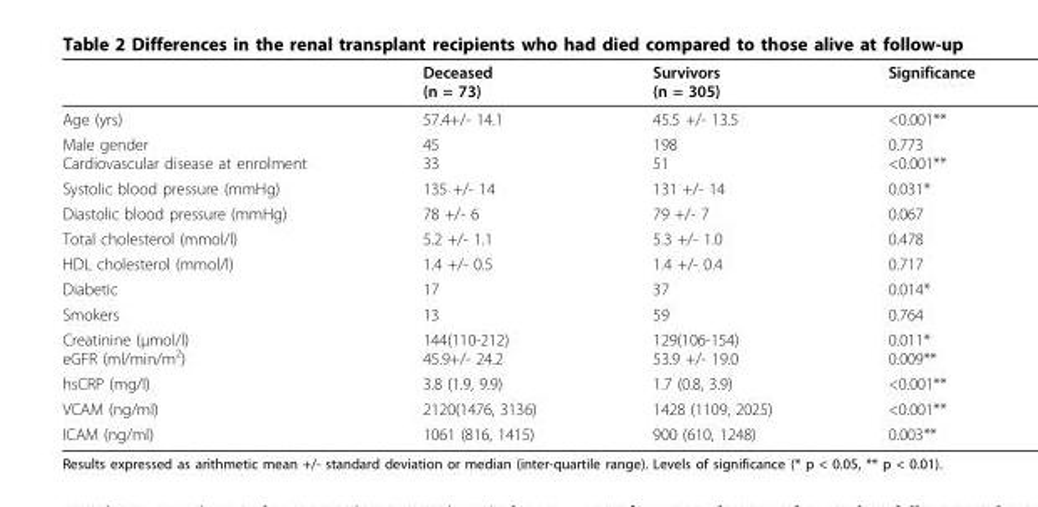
<table><thead><tr><td></td><td>Deceased (n = 73)</td><td>Survivors (n = 305)</td><td>Significance</td></tr></thead><tbody><tr><td>Age (yrs)</td><td>57.4+/- 14.1</td><td>45.5 +/- 13.5</td><td>&lt;0.001**</td></tr><tr><td>Male gender Cardiovascular disease at enrolment</td><td>45 33</td><td>198 51</td><td>0.773 &lt;0.001**</td></tr><tr><td>Systolic blood pressure (mmHg)</td><td>135 +/- 14</td><td>131 +/- 14</td><td>0.031*</td></tr><tr><td>Diastolic blood pressure (mmHg)</td><td>78 +/- 6</td><td>79 +/- 7</td><td>0.067</td></tr><tr><td>Total cholesterol (mmol/l)</td><td>5.2 +/- 1.1</td><td>5.3 +/- 1.0</td><td>0.478</td></tr><tr><td>HDL cholesterol (mmol/l)</td><td>1.4 +/- 0.5</td><td>1.4 +/- 0.4</td><td>0.717</td></tr><tr><td>Diabetic</td><td>17</td><td>37</td><td>0.014*</td></tr><tr><td>Smokers</td><td>13</td><td>59</td><td>0.764</td></tr><tr><td>Creatinine (μmol/l) eGFR (ml/min/m<sup>2</sup>)</td><td>144(110-212) 45.9+/- 24.2</td><td>129(106-154) 53.9 +/- 19.0</td><td>0.011* 0.009**</td></tr><tr><td>hsCRP (mg/l)</td><td>3.8 (1.9, 9.9)</td><td>1.7 (0.8, 3.9)</td><td>&lt;0.001**</td></tr><tr><td>VCAM (ng/ml)</td><td>2120(1476, 3136)</td><td>1428 (1109, 2025)</td><td>&lt;0.001**</td></tr><tr><td>ICAM (ng/ml)</td><td>1061 (816, 1415)</td><td>900 (610, 1248)</td><td>0.003**</td></tr></tbody></table>